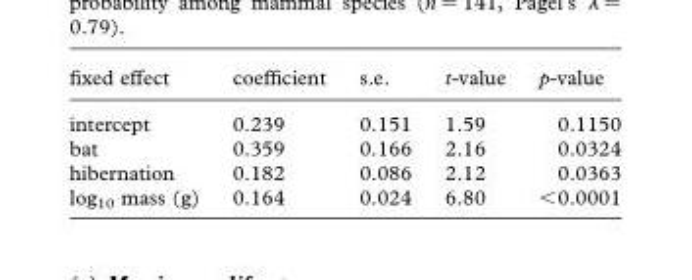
<table><thead><tr><td>fixed effect</td><td>coefficient</td><td>s.e.</td><td>t-value</td><td>p-value</td></tr></thead><tbody><tr><td>intercept</td><td>0.239</td><td>0.151</td><td>1.59</td><td>0.1150</td></tr><tr><td>bat</td><td>0.359</td><td>0.166</td><td>2.16</td><td>0.0324</td></tr><tr><td>hibernation</td><td>0.182</td><td>0.086</td><td>2.12</td><td>0.0363</td></tr><tr><td>log<sub>10</sub> mass (g)</td><td>0.164</td><td>0.024</td><td>6.80</td><td>&lt;0.0001</td></tr></tbody></table>